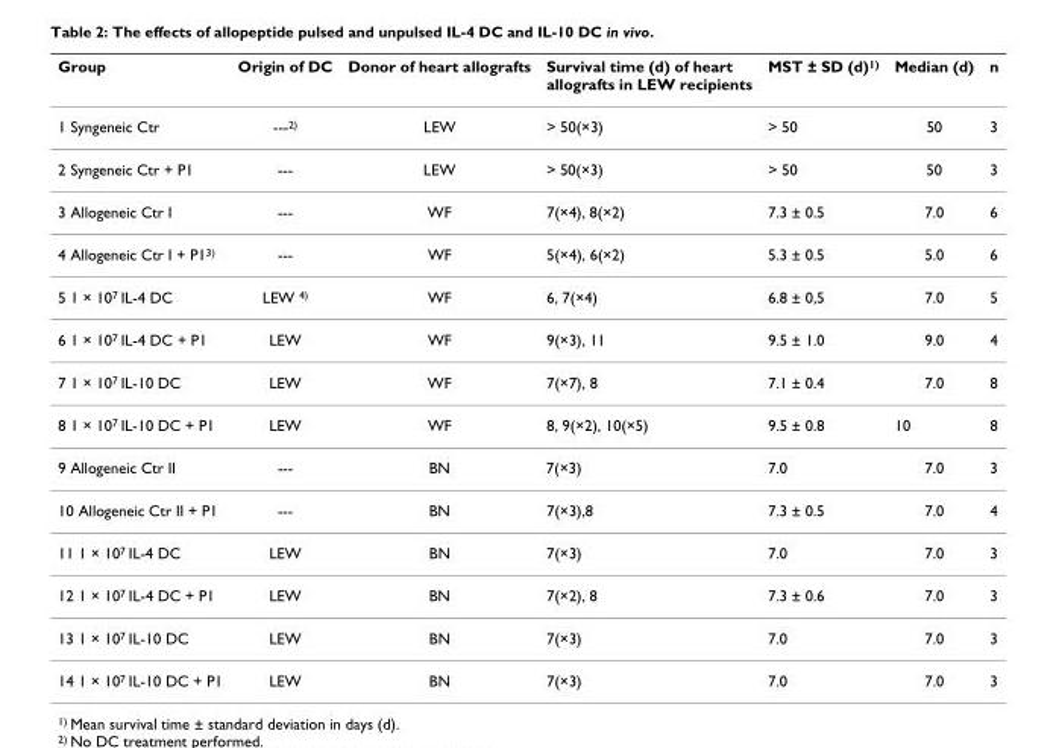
<table><thead><tr><td>Group</td><td>Origin of DC</td><td>Donor of heart allografts</td><td>Survival time (d) of heart allografts in LEW recipients</td><td>MST ± SD (d)<sup>1)</sup></td><td>Median (d)</td><td>n</td></tr></thead><tbody><tr><td>1 Syngeneic Ctr</td><td>---<sup>2)</sup></td><td>LEW</td><td>&gt; 50(×3)</td><td>&gt; 50</td><td>50</td><td>3</td></tr><tr><td>2 Syngeneic Ctr + P1</td><td>---</td><td>LEW</td><td>&gt; 50(×3)</td><td>&gt; 50</td><td>50</td><td>3</td></tr><tr><td>3 Allogeneic Ctr I</td><td>---</td><td>WF</td><td>7(×4), 8(×2)</td><td>7.3 ± 0.5</td><td>7.0</td><td>6</td></tr><tr><td>4 Allogeneic Ctr I + P1<sup>3)</sup></td><td>---</td><td>WF</td><td>5(×4), 6(×2)</td><td>5.3 ± 0.5</td><td>5.0</td><td>6</td></tr><tr><td>5 1 × 10<sup>7</sup> IL-4 DC</td><td>LEW <sup>4)</sup></td><td>WF</td><td>6, 7(×4)</td><td>6.8 ± 0,5</td><td>7.0</td><td>5</td></tr><tr><td>6 1 × 10<sup>7</sup> IL-4 DC + P1</td><td>LEW</td><td>WF</td><td>9(×3), 11</td><td>9.5 ± 1.0</td><td>9.0</td><td>4</td></tr><tr><td>7 1 × 10<sup>7</sup> IL-10 DC</td><td>LEW</td><td>WF</td><td>7(×7), 8</td><td>7.1 ± 0.4</td><td>7.0</td><td>8</td></tr><tr><td>8 1 × 10<sup>7</sup> IL-10 DC + P1</td><td>LEW</td><td>WF</td><td>8, 9(×2), 10(×5)</td><td>9.5 ± 0.8</td><td>10</td><td>8</td></tr><tr><td>9 Allogeneic Ctr II</td><td>---</td><td>BN</td><td>7(×3)</td><td>7.0</td><td>7.0</td><td>3</td></tr><tr><td>10 Allogeneic Ctr II + P1</td><td>---</td><td>BN</td><td>7(×3),8</td><td>7.3 ± 0.5</td><td>7.0</td><td>4</td></tr><tr><td>11 1 × 10<sup>7</sup> IL-4 DC</td><td>LEW</td><td>BN</td><td>7(×3)</td><td>7.0</td><td>7.0</td><td>3</td></tr><tr><td>12 1 × 10<sup>7</sup> IL-4 DC + P1</td><td>LEW</td><td>BN</td><td>7(×2), 8</td><td>7.3 ± 0.6</td><td>7.0</td><td>3</td></tr><tr><td>13 1 × 10<sup>7</sup> IL-10 DC</td><td>LEW</td><td>BN</td><td>7(×3)</td><td>7.0</td><td>7.0</td><td>3</td></tr><tr><td>14 1 × 10<sup>7</sup> IL-10 DC + P1</td><td>LEW</td><td>BN</td><td>7(×3)</td><td>7.0</td><td>7.0</td><td>3</td></tr></tbody></table>